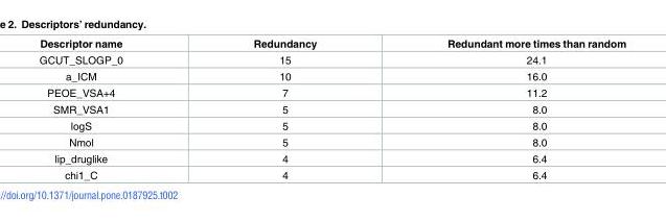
<table><thead><tr><td>Descriptor name</td><td>Redundancy</td><td>Redundant more times than random</td></tr></thead><tbody><tr><td>GCUT_SLOGP_0</td><td>15</td><td>24.1</td></tr><tr><td>a_ICM</td><td>10</td><td>16.0</td></tr><tr><td>PEOE_VSA+4</td><td>7</td><td>11.2</td></tr><tr><td>SMR_VSA1</td><td>5</td><td>8.0</td></tr><tr><td>logS</td><td>5</td><td>8.0</td></tr><tr><td>Nmol</td><td>5</td><td>8.0</td></tr><tr><td>lip_druglike</td><td>4</td><td>6.4</td></tr><tr><td>chi1_C</td><td>4</td><td>6.4</td></tr></tbody></table>